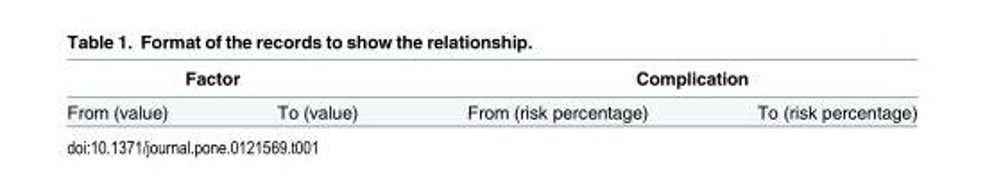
<table><thead><tr><td colspan="2">Factor</td><td colspan="2">Complication</td></tr><tr><td>From (value)</td><td>To (value)</td><td>From (risk percentage)</td><td>To (risk percentage)</td></tr></thead><tbody></tbody></table>